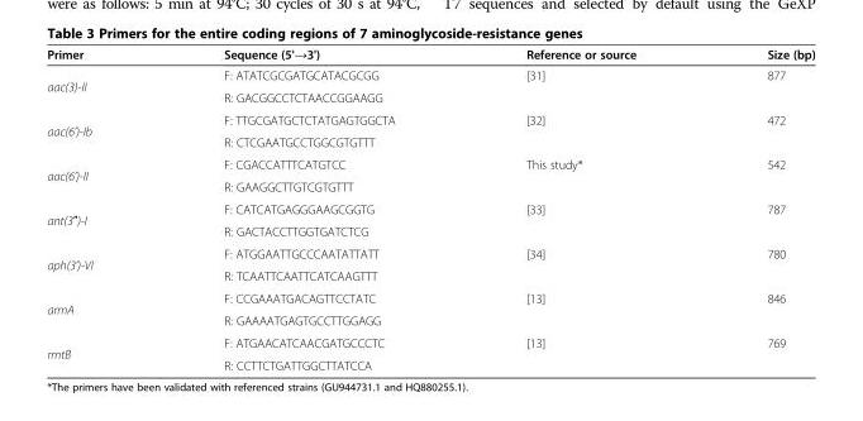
<table><thead><tr><td>Primer</td><td>Sequence (5&#x27;→3&#x27;)</td><td>Reference or source</td><td>Size (bp)</td></tr></thead><tbody><tr><td rowspan="2">aac(3)-II</td><td>F: ATATCGCGATGCATACGCGG</td><td rowspan="2">[31]</td><td rowspan="2">877</td></tr><tr><td>R: GACGGCCTCTAACCGGAAGG</td></tr><tr><td rowspan="2">aac(6’)-Ib</td><td>F: TTGCGATGCTCTATGAGTGGCTA</td><td rowspan="2">[32]</td><td rowspan="2">472</td></tr><tr><td>R: CTCGAATGCCTGGCGTGTTT</td></tr><tr><td rowspan="2">aac(6’)-II</td><td>F: CGACCATTTCATGTCC</td><td rowspan="2">This study*</td><td rowspan="2">542</td></tr><tr><td>R: GAAGGCTTGTCGTGTTT</td></tr><tr><td rowspan="2">ant(3″)-I</td><td>F: CATCATGAGGGAAGCGGTG</td><td rowspan="2">[33]</td><td rowspan="2">787</td></tr><tr><td>R: GACTACCTTGGTGATCTCG</td></tr><tr><td rowspan="2">aph(3’)-VI</td><td>F: ATGGAATTGCCCAATATTATT</td><td rowspan="2">[34]</td><td rowspan="2">780</td></tr><tr><td>R: TCAATTCAATTCATCAAGTTT</td></tr><tr><td rowspan="2">armA</td><td>F: CCGAAATGACAGTTCCTATC</td><td rowspan="2">[13]</td><td rowspan="2">846</td></tr><tr><td>R: GAAAATGAGTGCCTTGGAGG</td></tr><tr><td rowspan="2">rmtB</td><td>F: ATGAACATCAACGATGCCCTC</td><td rowspan="2">[13]</td><td rowspan="2">769</td></tr><tr><td>R: CCTTCTGATTGGCTTATCCA</td></tr></tbody></table>